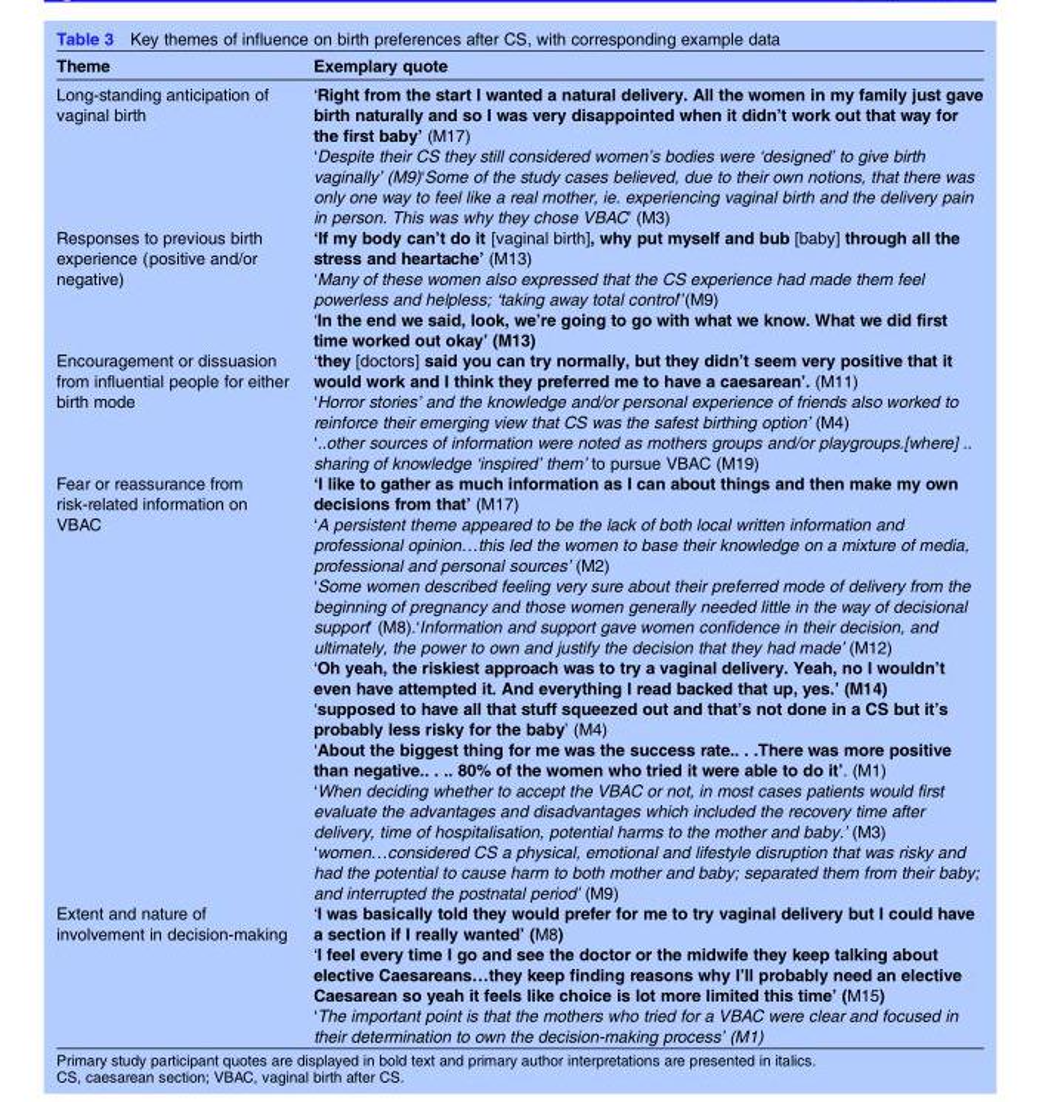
<table><thead><tr><td>Theme</td><td>Exemplary quote</td></tr></thead><tbody><tr><td>Long-standing anticipation of vaginal birth</td><td>‘Right from the start I wanted a natural delivery. All the women in my family just gave birth naturally and so I was very disappointed when it didn’t work out that way for the first baby’ (M17) ‘Despite their CS they still considered women’s bodies were ‘designed’ to give birth vaginally’ (M9)‘Some of the study cases believed, due to their own notions, that there was only one way to feel like a real mother, ie. experiencing vaginal birth and the delivery pain in person. This was why they chose VBAC’ (M3)</td></tr><tr><td>Responses to previous birth experience (positive and/or negative)</td><td>‘If my body can’t do it [vaginal birth], why put myself and bub [baby] through all the stress and heartache’ (M13) ‘Many of these women also expressed that the CS experience had made them feel powerless and helpless; ‘taking away total control’’(M9) ‘In the end we said, look, we’re going to go with what we know. What we did first time worked out okay’ (M13)</td></tr><tr><td>Encouragement or dissuasion from influential people for either birth mode</td><td>‘they [doctors] said you can try normally, but they didn’t seem very positive that it would work and I think they preferred me to have a caesarean’. (M11) ‘Horror stories’ and the knowledge and/or personal experience of friends also worked to reinforce their emerging view that CS was the safest birthing option’ (M4) ‘..other sources of information were noted as mothers groups and/or playgroups.[where] .. sharing of knowledge ‘inspired’ them’ to pursue VBAC (M19)</td></tr><tr><td rowspan="2">Fear or reassurance from risk-related information on VBAC</td><td>‘I like to gather as much information as I can about things and then make my own decisions from that’ (M17) ‘A persistent theme appeared to be the lack of both local written information and professional opinion…this led the women to base their knowledge on a mixture of media, professional and personal sources’ (M2) ‘Some women described feeling very sure about their preferred mode of delivery from the beginning of pregnancy and those women generally needed little in the way of decisional support’ (M8).‘Information and support gave women confidence in their decision, and ultimately, the power to own and justify the decision that they had made’ (M12) ‘Oh yeah, the riskiest approach was to try a vaginal delivery. Yeah, no I wouldn’t even have attempted it. And everything I read backed that up, yes.’ (M14)</td></tr><tr><td>‘supposed to have all that stuff squeezed out and that’s not done in a CS but it’s probably less risky for the baby’ (M4) ‘About the biggest thing for me was the success rate.. . .There was more positive than negative.. . .. 80% of the women who tried it were able to do it’. (M1) ‘When deciding whether to accept the VBAC or not, in most cases patients would first evaluate the advantages and disadvantages which included the recovery time after delivery, time of hospitalisation, potential harms to the mother and baby.’ (M3) ‘women…considered CS a physical, emotional and lifestyle disruption that was risky and had the potential to cause harm to both mother and baby; separated them from their baby; and interrupted the postnatal period’ (M9)</td></tr><tr><td>Extent and nature of involvement in decision-making</td><td>‘I was basically told they would prefer for me to try vaginal delivery but I could have a section if I really wanted’ (M8) ‘I feel every time I go and see the doctor or the midwife they keep talking about elective Caesareans…they keep finding reasons why I’ll probably need an elective Caesarean so yeah it feels like choice is lot more limited this time’ (M15) ‘The important point is that the mothers who tried for a VBAC were clear and focused in their determination to own the decision-making process’ (M1)</td></tr></tbody></table>